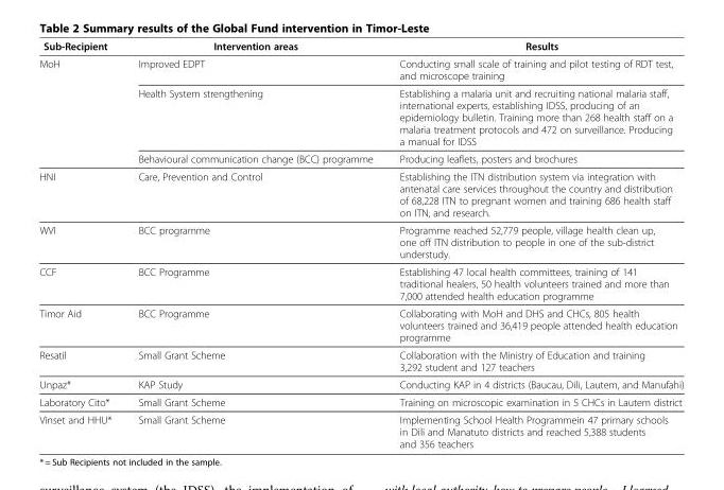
<table><thead><tr><td>Sub-Recipient</td><td>Intervention areas</td><td>Results</td></tr></thead><tbody><tr><td rowspan="3">MoH</td><td>Improved EDPT</td><td>Conducting small scale of training and pilot testing of RDT test, and microscope training</td></tr><tr><td>Health System strengthening</td><td>Establishing a malaria unit and recruiting national malaria staff, international experts, establishing IDSS, producing of an epidemiology bulletin. Training more than 268 health staff on a malaria treatment protocols and 472 on surveillance. Producing a manual for IDSS</td></tr><tr><td>Behavioural communication change (BCC) programme</td><td>Producing leaflets, posters and brochures</td></tr><tr><td>HNI</td><td>Care, Prevention and Control</td><td>Establishing the ITN distribution system via integration with antenatal care services throughout the country and distribution of 68,228 ITN to pregnant women and training 686 health staff on ITN, and research.</td></tr><tr><td>WVI</td><td>BCC programme</td><td>Programme reached 52,779 people, village health clean up, one off ITN distribution to people in one of the sub-district understudy.</td></tr><tr><td>CCF</td><td>BCC Programme</td><td>Establishing 47 local health committees, training of 141 traditional healers, 50 health volunteers trained and more than 7,000 attended health education programme</td></tr><tr><td>Timor Aid</td><td>BCC Programme</td><td>Collaborating with MoH and DHS and CHCs, 805 health volunteers trained and 36,419 people attended health education programme</td></tr><tr><td>Resatil</td><td>Small Grant Scheme</td><td>Collaboration with the Ministry of Education and training 3,292 student and 127 teachers</td></tr><tr><td>Unpaz*</td><td>KAP Study</td><td>Conducting KAP in 4 districts (Baucau, Dili, Lautem, and Manufahi)</td></tr><tr><td>Laboratory Cito*</td><td>Small Grant Scheme</td><td>Training on microscopic examination in 5 CHCs in Lautem district</td></tr><tr><td>Vinset and HHU*</td><td>Small Grant Scheme</td><td>Implementing School Health Programmein 47 primary schools in Dili and Manatuto districts and reached 5,388 students and 356 teachers</td></tr></tbody></table>